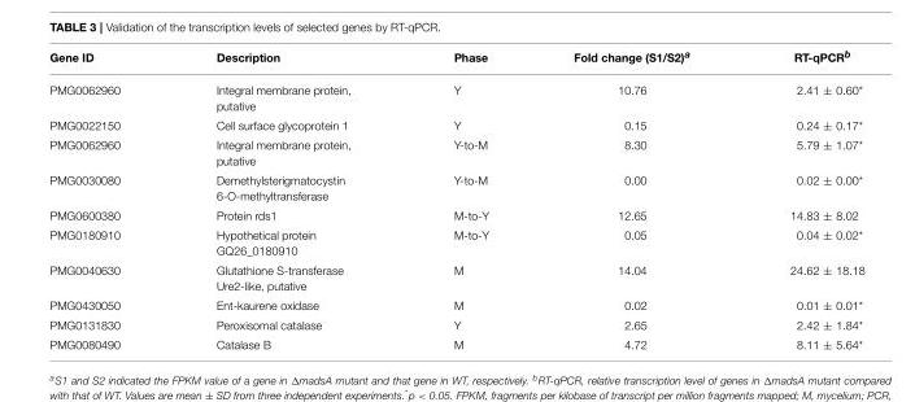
<table><thead><tr><td>Gene ID</td><td>Description</td><td>Phase</td><td>Fold change (S1/S2)<sup>a</sup></td><td>RT-qPCR<sup>b</sup></td></tr></thead><tbody><tr><td>PMG0062960</td><td>Integral membrane protein, putative</td><td>Y</td><td>10.76</td><td>2.41 ± 0.60*</td></tr><tr><td>PMG0022150</td><td>Cell surface glycoprotein 1</td><td>Y</td><td>0.15</td><td>0.24 ± 0.17*</td></tr><tr><td>PMG0062960</td><td>Integral membrane protein, putative</td><td>Y-to-M</td><td>8.30</td><td>5.79 ± 1.07*</td></tr><tr><td>PMG0030080</td><td>Demethylsterigmatocystin 6-O-methyltransferase</td><td>Y-to-M</td><td>0.00</td><td>0.02 ± 0.00*</td></tr><tr><td>PMG0600380</td><td>Protein rds1</td><td>M-to-Y</td><td>12.65</td><td>14.83 ± 8.02</td></tr><tr><td>PMG0180910</td><td>Hypothetical protein GQ26_0180910</td><td>M-to-Y</td><td>0.05</td><td>0.04 ± 0.02*</td></tr><tr><td>PMG0040630</td><td>Glutathione S-transferase Ure2-like, putative</td><td>M</td><td>14.04</td><td>24.62 ± 18.18</td></tr><tr><td>PMG0430050</td><td>Ent-kaurene oxidase</td><td>M</td><td>0.02</td><td>0.01 ± 0.01*</td></tr><tr><td>PMG0131830</td><td>Peroxisomal catalase</td><td>Y</td><td>2.65</td><td>2.42 ± 1.84*</td></tr><tr><td>PMG0080490</td><td>Catalase B</td><td>M</td><td>4.72</td><td>8.11 ± 5.64*</td></tr></tbody></table>